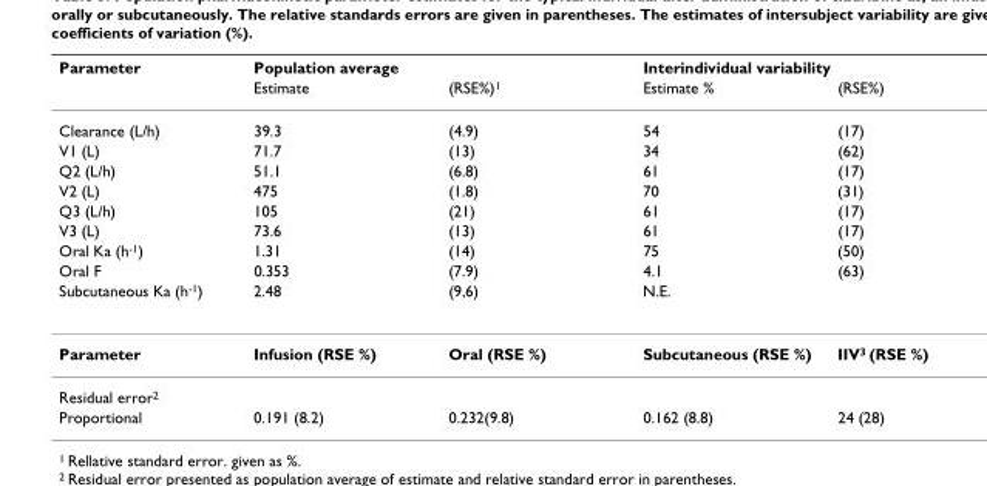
<table><thead><tr><td rowspan="2">Parameter</td><td colspan="2">Population average</td><td colspan="2">Interindividual variability</td></tr><tr><td>Estimate</td><td>(RSE%)<sup>1</sup></td><td>Estimate %</td><td>(RSE%)</td></tr></thead><tbody><tr><td>Clearance (L/h)</td><td>39.3</td><td>(4.9)</td><td>54</td><td>(17)</td></tr><tr><td>V1 (L)</td><td>71.7</td><td>(13)</td><td>34</td><td>(62)</td></tr><tr><td>Q2 (L/h)</td><td>51.1</td><td>(6.8)</td><td>61</td><td>(17)</td></tr><tr><td>V2 (L)</td><td>475</td><td>(1.8)</td><td>70</td><td>(31)</td></tr><tr><td>Q3 (L/h)</td><td>105</td><td>(21)</td><td>61</td><td>(17)</td></tr><tr><td>V3 (L)</td><td>73.6</td><td>(13)</td><td>61</td><td>(17)</td></tr><tr><td>Oral Ka (h<sup>-1</sup>)</td><td>1.31</td><td>(14)</td><td>75</td><td>(50)</td></tr><tr><td>Oral F</td><td>0.353</td><td>(7.9)</td><td>4.1</td><td>(63)</td></tr><tr><td>Subcutaneous Ka (h<sup>-1</sup>)</td><td>2.48</td><td>(9,6)</td><td>N.E.</td><td></td></tr><tr><td>Parameter</td><td>Infusion (RSE %)</td><td>Oral (RSE %)</td><td>Subcutaneous (RSE %)</td><td>IIV<sup>3</sup> (RSE %)</td></tr><tr><td colspan="5">Residual error<sup>2</sup></td></tr><tr><td>Proportional</td><td>0.191 (8.2)</td><td>0.232(9.8)</td><td>0.162 (8.8)</td><td>24 (28)</td></tr></tbody></table>